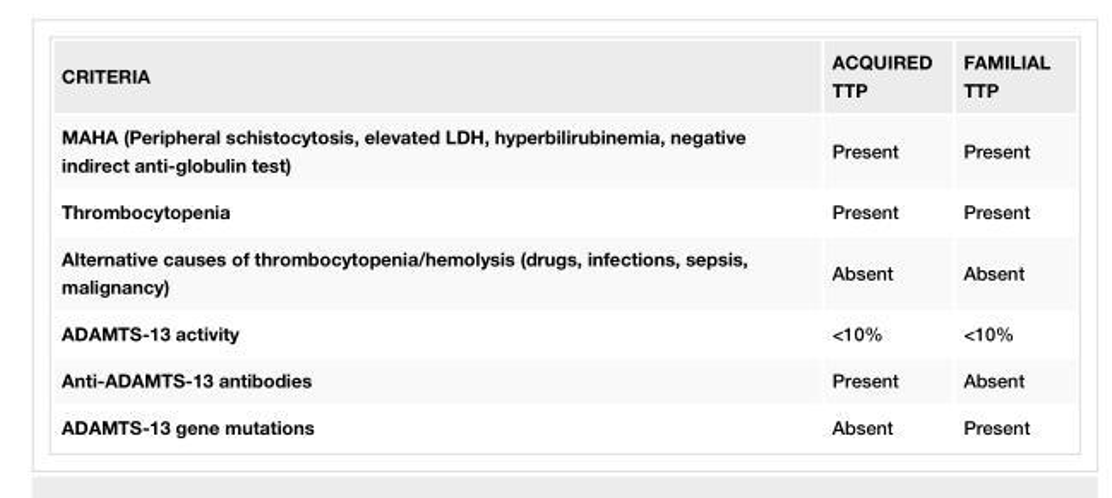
<table><tbody><tr><td>CRITERIA</td><td>ACQUIRED TTP</td><td>FAMILIAL TTP</td></tr><tr><td>MAHA (Peripheral schistocytosis, elevated LDH, hyperbilirubinemia, negative indirect anti-globulin test)</td><td>Present</td><td>Present</td></tr><tr><td>Thrombocytopenia</td><td>Present</td><td>Present</td></tr><tr><td>Alternative causes of thrombocytopenia/hemolysis (drugs, infections, sepsis, malignancy)</td><td>Absent</td><td>Absent</td></tr><tr><td>ADAMTS-13 activity</td><td>&lt;10%</td><td>&lt;10%</td></tr><tr><td>Anti-ADAMTS-13 antibodies</td><td>Present</td><td>Absent</td></tr><tr><td>ADAMTS-13 gene mutations</td><td>Absent</td><td>Present</td></tr></tbody></table>